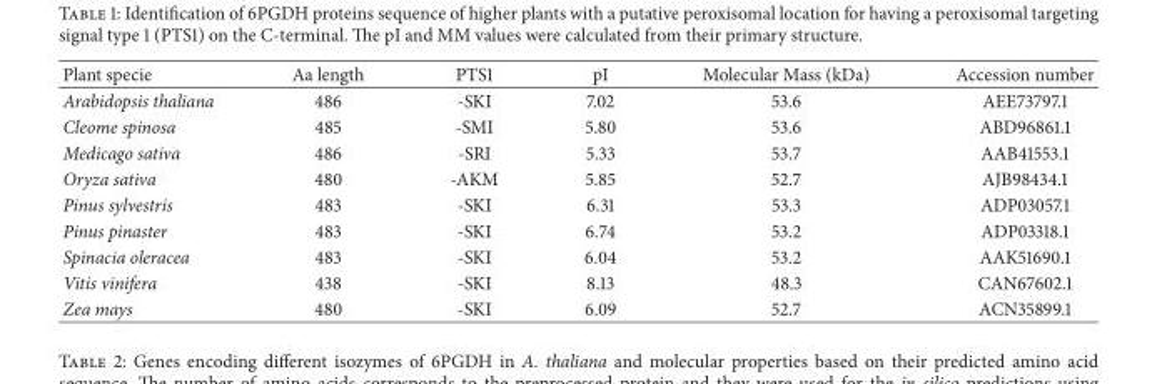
<table><thead><tr><td>Plant specie</td><td>Aa length</td><td>PTS1</td><td>pI</td><td>Molecular Mass (kDa)</td><td>Accession number</td></tr></thead><tbody><tr><td>Arabidopsis thaliana</td><td>486</td><td>-SKI</td><td>7.02</td><td>53.6</td><td>AEE73797.1</td></tr><tr><td>Cleome spinosa</td><td>485</td><td>-SMI</td><td>5.80</td><td>53.6</td><td>ABD96861.1</td></tr><tr><td>Medicago sativa</td><td>486</td><td>-SRI</td><td>5.33</td><td>53.7</td><td>AAB41553.1</td></tr><tr><td>Oryza sativa</td><td>480</td><td>-AKM</td><td>5.85</td><td>52.7</td><td>AJB98434.1</td></tr><tr><td>Pinus sylvestris</td><td>483</td><td>-SKI</td><td>6.31</td><td>53.3</td><td>ADP03057.1</td></tr><tr><td>Pinus pinaster</td><td>483</td><td>-SKI</td><td>6.74</td><td>53.2</td><td>ADP03318.1</td></tr><tr><td>Spinacia oleracea</td><td>483</td><td>-SKI</td><td>6.04</td><td>53.2</td><td>AAK51690.1</td></tr><tr><td>Vitis vinifera</td><td>438</td><td>-SKI</td><td>8.13</td><td>48.3</td><td>CAN67602.1</td></tr><tr><td>Zea mays</td><td>480</td><td>-SKI</td><td>6.09</td><td>52.7</td><td>ACN35899.1</td></tr></tbody></table>